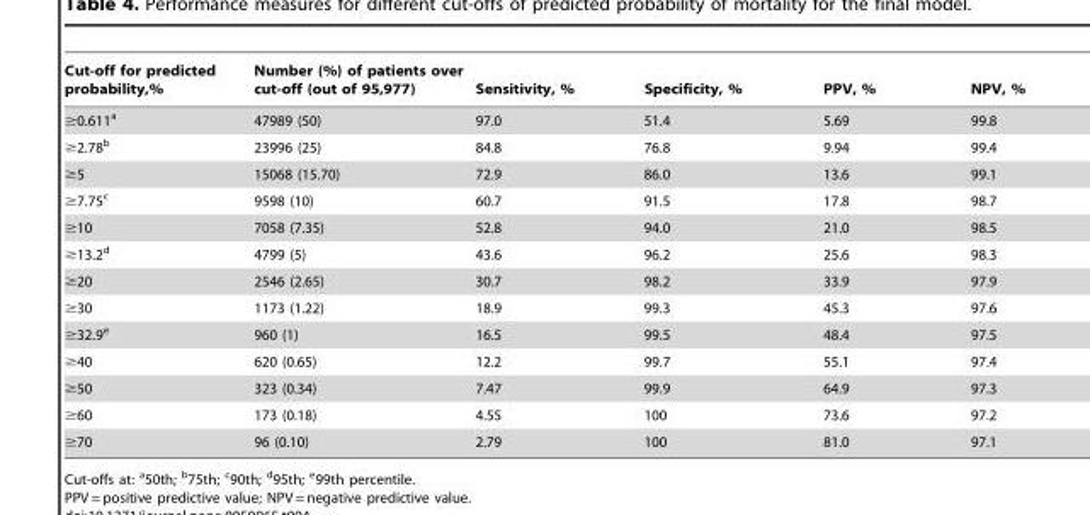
<table><thead><tr><td>Cut-off for predicted probability,%</td><td>Number (%) of patients over cut-off (out of 95,977)</td><td>Sensitivity, %</td><td>Specificity, %</td><td>PPV, %</td><td>NPV, %</td></tr></thead><tbody><tr><td>≥0.611<sup>a</sup></td><td>47989 (50)</td><td>97.0</td><td>51.4</td><td>5.69</td><td>99.8</td></tr><tr><td>≥2.78<sup>b</sup></td><td>23996 (25)</td><td>84.8</td><td>76.8</td><td>9.94</td><td>99.4</td></tr><tr><td>≥5</td><td>15068 (15.70)</td><td>72.9</td><td>86.0</td><td>13.6</td><td>99.1</td></tr><tr><td>≥7.75<sup>c</sup></td><td>9598 (10)</td><td>60.7</td><td>91.5</td><td>17.8</td><td>98.7</td></tr><tr><td>≥10</td><td>7058 (7.35)</td><td>52.8</td><td>94.0</td><td>21.0</td><td>98.5</td></tr><tr><td>≥13.2<sup>d</sup></td><td>4799 (5)</td><td>43.6</td><td>96.2</td><td>25.6</td><td>98.3</td></tr><tr><td>≥20</td><td>2546 (2.65)</td><td>30.7</td><td>98.2</td><td>33.9</td><td>97.9</td></tr><tr><td>≥30</td><td>1173 (1.22)</td><td>18.9</td><td>99.3</td><td>45.3</td><td>97.6</td></tr><tr><td>≥32.9<sup>e</sup></td><td>960 (1)</td><td>16.5</td><td>99.5</td><td>48.4</td><td>97.5</td></tr><tr><td>≥40</td><td>620 (0.65)</td><td>12.2</td><td>99.7</td><td>55.1</td><td>97.4</td></tr><tr><td>≥50</td><td>323 (0.34)</td><td>7.47</td><td>99.9</td><td>64.9</td><td>97.3</td></tr><tr><td>≥60</td><td>173 (0.18)</td><td>4.55</td><td>100</td><td>73.6</td><td>97.2</td></tr><tr><td>≥70</td><td>96 (0.10)</td><td>2.79</td><td>100</td><td>81.0</td><td>97.1</td></tr></tbody></table>